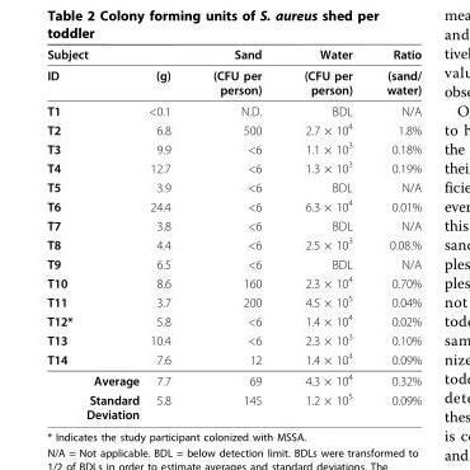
<table><thead><tr><td rowspan="2">Subject ID</td><td colspan="2">Sand</td><td rowspan="2">Water (CFU per person)</td><td rowspan="2">Ratio (sand/ water)</td></tr><tr><td>(g)</td><td>(CFU per person)</td></tr></thead><tbody><tr><td>T1</td><td>&lt;0.1</td><td>N.D.</td><td>BDL</td><td>N/A</td></tr><tr><td>T2</td><td>6.8</td><td>500</td><td>2.7 × 10<sup>4</sup></td><td>1.8%</td></tr><tr><td>T3</td><td>9.9</td><td>&lt;6</td><td>1.1 × 10<sup>3</sup></td><td>0.18%</td></tr><tr><td>T4</td><td>12.7</td><td>&lt;6</td><td>1.3 × 10<sup>3</sup></td><td>0.19%</td></tr><tr><td>T5</td><td>3.9</td><td>&lt;6</td><td>BDL</td><td>N/A</td></tr><tr><td>T6</td><td>24.4</td><td>&lt;6</td><td>6.3 × 10<sup>4</sup></td><td>0.01%</td></tr><tr><td>T7</td><td>3.8</td><td>&lt;6</td><td>BDL</td><td>N/A</td></tr><tr><td>T8</td><td>4.4</td><td>&lt;6</td><td>2.5 × 10<sup>3</sup></td><td>0.08.%</td></tr><tr><td>T9</td><td>6.5</td><td>&lt;6</td><td>BDL</td><td>N/A</td></tr><tr><td>T10</td><td>8.6</td><td>160</td><td>2.3 × 10<sup>4</sup></td><td>0.70%</td></tr><tr><td>T11</td><td>3.7</td><td>200</td><td>4.5 × 10<sup>5</sup></td><td>0.04%</td></tr><tr><td>T12*</td><td>5.8</td><td>&lt;6</td><td>1.4 × 10<sup>4</sup></td><td>0.02%</td></tr><tr><td>T13</td><td>10.4</td><td>&lt;6</td><td>2.3 × 10<sup>3</sup></td><td>0.10%</td></tr><tr><td>T14</td><td>7.6</td><td>12</td><td>1.4 × 10<sup>4</sup></td><td>0.09%</td></tr><tr><td>Average</td><td>7.7</td><td>69</td><td>4.3 × 10<sup>4</sup></td><td>0.32%</td></tr><tr><td>Standard Deviation</td><td>5.8</td><td>145</td><td>1.2 × 10<sup>5</sup></td><td>0.09%</td></tr></tbody></table>